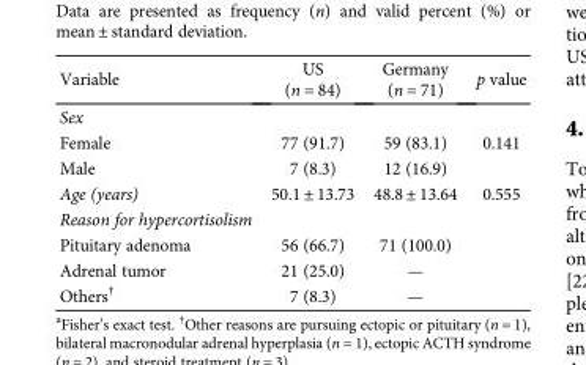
<table><thead><tr><td>Variable</td><td>US (n = 84)</td><td>Germany (n = 71)</td><td>p value</td></tr></thead><tbody><tr><td colspan="4">Sex</td></tr><tr><td>Female</td><td>77 (91.7)</td><td>59 (83.1)</td><td>0.141</td></tr><tr><td>Male</td><td>7 (8.3)</td><td>12 (16.9)</td><td></td></tr><tr><td>Age (years)</td><td>50.1 ± 13.73</td><td>48.8 ± 13.64</td><td>0.555</td></tr><tr><td colspan="4">Reason for hypercortisolism</td></tr><tr><td>Pituitary adenoma</td><td>56 (66.7)</td><td>71 (100.0)</td><td></td></tr><tr><td>Adrenal tumor</td><td>21 (25.0)</td><td>—</td><td></td></tr><tr><td>Others<sup>†</sup></td><td>7 (8.3)</td><td>—</td><td></td></tr></tbody></table>